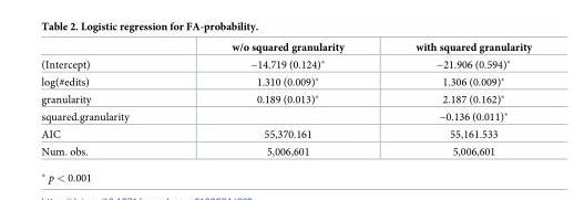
<table><thead><tr><td></td><td>w/o squared granularity</td><td>with squared granularity</td></tr></thead><tbody><tr><td>(Intercept)</td><td>−14.719 (0.124)*</td><td>−21.906 (0.594)*</td></tr><tr><td>log(#edits)</td><td>1.310 (0.009)*</td><td>1.306 (0.009)*</td></tr><tr><td>granularity</td><td>0.189 (0.013)*</td><td>2.187 (0.162)*</td></tr><tr><td>squared.granularity</td><td></td><td>−0.136 (0.011)*</td></tr><tr><td>AIC</td><td>55,370.161</td><td>55,161.533</td></tr><tr><td>Num. obs.</td><td>5,006,601</td><td>5,006,601</td></tr></tbody></table>